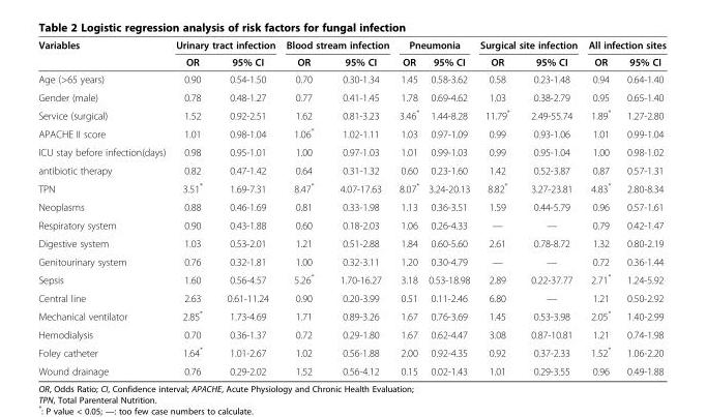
<table><thead><tr><td rowspan="2">Variables</td><td colspan="2">Urinary tract infection</td><td colspan="2">Blood stream infection</td><td colspan="2">Pneumonia</td><td colspan="2">Surgical site infection</td><td colspan="2">All infection sites</td></tr><tr><td>OR</td><td>95% CI</td><td>OR</td><td>95% CI</td><td>OR</td><td>95% CI</td><td>OR</td><td>95% CI</td><td>OR</td><td>95% CI</td></tr></thead><tbody><tr><td>Age (&gt;65 years)</td><td>0.90</td><td>0.54-1.50</td><td>0.70</td><td>0.30-1.34</td><td>1.45</td><td>0.58-3.62</td><td>0.58</td><td>0.23-1.48</td><td>0.94</td><td>0.64-1.40</td></tr><tr><td>Gender (male)</td><td>0.78</td><td>0.48-1.27</td><td>0.77</td><td>0.41-1.45</td><td>1.78</td><td>0.69-4.62</td><td>1.03</td><td>0.38-2.79</td><td>0.95</td><td>0.65-1.40</td></tr><tr><td>Service (surgical)</td><td>1.52</td><td>0.92-2.51</td><td>1.62</td><td>0.81-3.23</td><td>3.46*</td><td>1.44-8.28</td><td>11.79*</td><td>2.49-55.74</td><td>1.89*</td><td>1.27-2.80</td></tr><tr><td>APACHE II score</td><td>1.01</td><td>0.98-1.04</td><td>1.06*</td><td>1.02-1.11</td><td>1.03</td><td>0.97-1.09</td><td>0.99</td><td>0.93-1.06</td><td>1.01</td><td>0.99-1.04</td></tr><tr><td>ICU stay before infection(days)</td><td>0.98</td><td>0.95-1.01</td><td>1.00</td><td>0.97-1.03</td><td>1.01</td><td>0.99-1.03</td><td>0.99</td><td>0.95-1.04</td><td>1.00</td><td>0.98-1.02</td></tr><tr><td>antibiotic therapy</td><td>0.82</td><td>0.47-1.42</td><td>0.64</td><td>0.31-1.32</td><td>0.60</td><td>0.23-1.60</td><td>1.42</td><td>0.52-3.87</td><td>0.87</td><td>0.57-1.31</td></tr><tr><td>TPN</td><td>3.51*</td><td>1.69-7.31</td><td>8.47*</td><td>4.07-17.63</td><td>8.07*</td><td>3.24-20.13</td><td>8.82*</td><td>3.27-23.81</td><td>4.83*</td><td>2.80-8.34</td></tr><tr><td>Neoplasms</td><td>0.88</td><td>0.46-1.69</td><td>0.81</td><td>0.33-1.98</td><td>1.13</td><td>0.36-3.51</td><td>1.59</td><td>0.44-5.79</td><td>0.96</td><td>0.57-1.61</td></tr><tr><td>Respiratory system</td><td>0.90</td><td>0.43-1.88</td><td>0.60</td><td>0.18-2.03</td><td>1.06</td><td>0.26-4.33</td><td>—</td><td>—</td><td>0.79</td><td>0.42-1.47</td></tr><tr><td>Digestive system</td><td>1.03</td><td>0.53-2.01</td><td>1.21</td><td>0.51-2.88</td><td>1.84</td><td>0.60-5.60</td><td>2.61</td><td>0.78-8.72</td><td>1.32</td><td>0.80-2.19</td></tr><tr><td>Genitourinary system</td><td>0.76</td><td>0.32-1.81</td><td>1.00</td><td>0.32-3.11</td><td>1.20</td><td>0.30-4.79</td><td>—</td><td>—</td><td>0.72</td><td>0.36-1.44</td></tr><tr><td>Sepsis</td><td>1.60</td><td>0.56-4.57</td><td>5.26*</td><td>1.70-16.27</td><td>3.18</td><td>0.53-18.98</td><td>2.89</td><td>0.22-37.77</td><td>2.71*</td><td>1.24-5.92</td></tr><tr><td>Central line</td><td>2.63</td><td>0.61-11.24</td><td>0.90</td><td>0.20-3.99</td><td>0.51</td><td>0.11-2.46</td><td>6.80</td><td>—</td><td>1.21</td><td>0.50-2.92</td></tr><tr><td>Mechanical ventilator</td><td>2.85*</td><td>1.73-4.69</td><td>1.71</td><td>0.89-3.26</td><td>1.67</td><td>0.76-3.69</td><td>1.45</td><td>0.53-3.98</td><td>2.05*</td><td>1.40-2.99</td></tr><tr><td>Hemodialysis</td><td>0.70</td><td>0.36-1.37</td><td>0.72</td><td>0.29-1.80</td><td>1.67</td><td>0.62-4.47</td><td>3.08</td><td>0.87-10.81</td><td>1.21</td><td>0.74-1.98</td></tr><tr><td>Foley catheter</td><td>1.64*</td><td>1.01-2.67</td><td>1.02</td><td>0.56-1.88</td><td>2.00</td><td>0.92-4.35</td><td>0.92</td><td>0.37-2.33</td><td>1.52*</td><td>1.06-2.20</td></tr><tr><td>Wound drainage</td><td>0.76</td><td>0.29-2.02</td><td>1.52</td><td>0.56-4.12</td><td>0.15</td><td>0.02-1.43</td><td>1.01</td><td>0.29-3.55</td><td>0.96</td><td>0.49-1.88</td></tr></tbody></table>